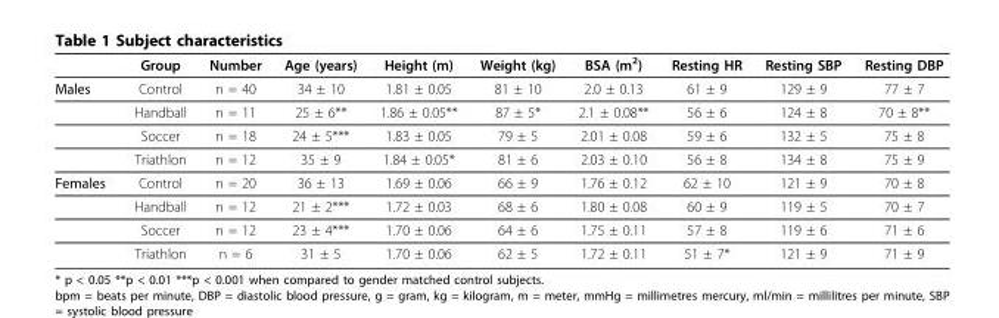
<table><thead><tr><td></td><td>Group</td><td>Number</td><td>Age (years)</td><td>Height (m)</td><td>Weight (kg)</td><td>BSA (m<sup>2</sup>)</td><td>Resting HR</td><td>Resting SBP</td><td>Resting DBP</td></tr></thead><tbody><tr><td rowspan="4">Males</td><td>Control</td><td>n = 40</td><td>34 ± 10</td><td>1.81 ± 0.05</td><td>81 ± 10</td><td>2.0 ± 0.13</td><td>61 ± 9</td><td>129 ± 9</td><td>77 ± 7</td></tr><tr><td>Handball</td><td>n = 11</td><td>25 ± 6**</td><td>1.86 ± 0.05**</td><td>87 ± 5*</td><td>2.1 ± 0.08**</td><td>56 ± 6</td><td>124 ± 8</td><td>70 ± 8**</td></tr><tr><td>Soccer</td><td>n = 18</td><td>24 ± 5***</td><td>1.83 ± 0.05</td><td>79 ± 5</td><td>2.01 ± 0.08</td><td>59 ± 6</td><td>132 ± 5</td><td>75 ± 8</td></tr><tr><td>Triathlon</td><td>n = 12</td><td>35 ± 9</td><td>1.84 ± 0.05*</td><td>81 ± 6</td><td>2.03 ± 0.10</td><td>56 ± 8</td><td>134 ± 8</td><td>75 ± 9</td></tr><tr><td rowspan="4">Females</td><td>Control</td><td>n = 20</td><td>36 ± 13</td><td>1.69 ± 0.06</td><td>66 ± 9</td><td>1.76 ± 0.12</td><td>62 ± 10</td><td>121 ± 9</td><td>70 ± 8</td></tr><tr><td>Handball</td><td>n = 12</td><td>21 ± 2***</td><td>1.72 ± 0.03</td><td>68 ± 6</td><td>1.80 ± 0.08</td><td>60 ± 9</td><td>119 ± 5</td><td>70 ± 7</td></tr><tr><td>Soccer</td><td>n = 12</td><td>23 ± 4***</td><td>1.70 ± 0.06</td><td>64 ± 6</td><td>1.75 ± 0.11</td><td>57 ± 8</td><td>119 ± 6</td><td>71 ± 6</td></tr><tr><td>Triathlon</td><td>n = 6</td><td>31 ± 5</td><td>1.70 ± 0.06</td><td>62 ± 5</td><td>1.72 ± 0.11</td><td>51 ± 7*</td><td>121 ± 9</td><td>71 ± 9</td></tr></tbody></table>